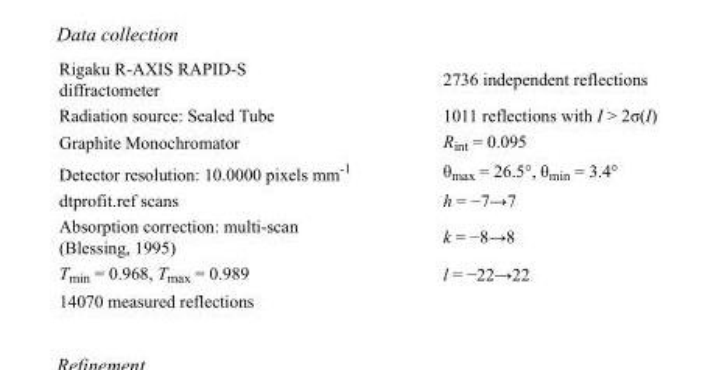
<table><tbody><tr><td>Rigaku R-AXIS RAPID-S diffractometer</td><td>2736 independent reflections</td></tr><tr><td>Radiation source: Sealed Tube</td><td>1011 reflections with I &gt; 2σ(I)</td></tr><tr><td>Graphite Monochromator</td><td>R<sub>int</sub> = 0.095</td></tr><tr><td>Detector resolution: 10.0000 pixels mm<sup>-1</sup></td><td>θ<sub>max</sub> = 26.5°, θ<sub>min</sub> = 3.4°</td></tr><tr><td>dtprofit.ref scans</td><td>h = −7→7</td></tr><tr><td>Absorption correction: multi-scan (Blessing, 1995)</td><td>k = −8→8</td></tr><tr><td>T<sub>min</sub> = 0.968, T<sub>max</sub> = 0.989</td><td>l = −22→22</td></tr><tr><td>14070 measured reflections</td><td></td></tr></tbody></table>